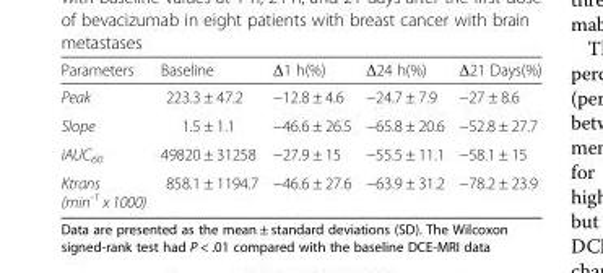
<table><thead><tr><td>Parameters</td><td>Baseline</td><td>Δ1 h(%)</td><td>Δ24 h(%)</td><td>Δ21 Days(%)</td></tr></thead><tbody><tr><td>Peak</td><td>223.3 ± 47.2</td><td>−12.8 ± 4.6</td><td>−24.7 ± 7.9</td><td>−27 ± 8.6</td></tr><tr><td>Slope</td><td>1.5 ± 1.1</td><td>−46.6 ± 26.5</td><td>−65.8 ± 20.6</td><td>−52.8 ± 27.7</td></tr><tr><td>iAUC<sub>60</sub></td><td>49820 ± 31258</td><td>−27.9 ± 15</td><td>−55.5 ± 11.1</td><td>−58.1 ± 15</td></tr><tr><td>Ktrans (min<sup>-1</sup> x 1000)</td><td>858.1 ± 1194.7</td><td>−46.6 ± 27.6</td><td>−63.9 ± 31.2</td><td>−78.2 ± 23.9</td></tr></tbody></table>